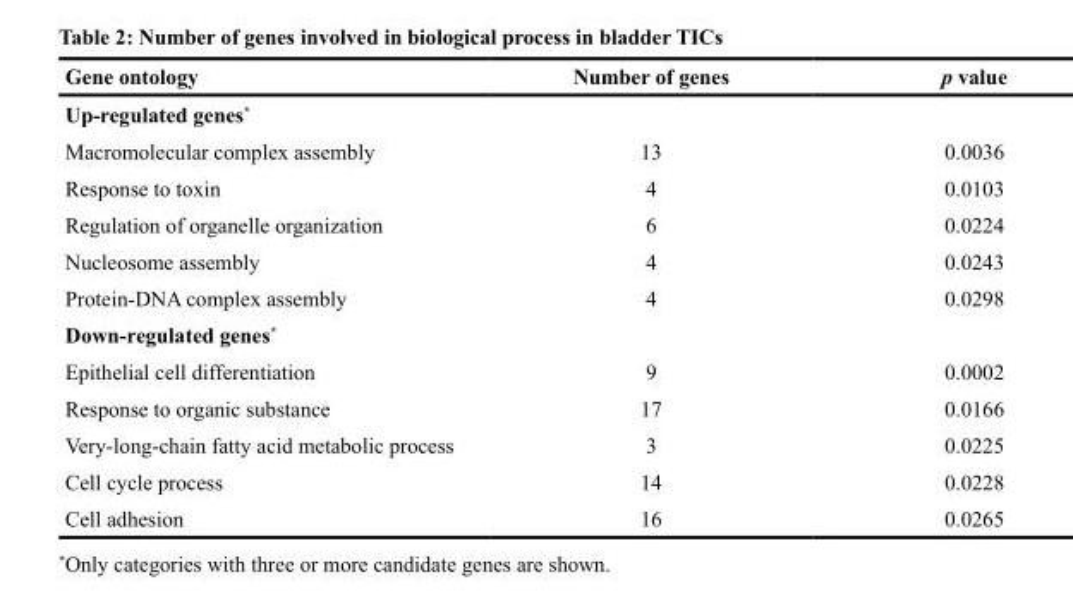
<table><thead><tr><td>Gene ontology</td><td>Number of genes</td><td>p value</td></tr></thead><tbody><tr><td colspan="3">Up-regulated genes*</td></tr><tr><td>Macromolecular complex assembly</td><td>13</td><td>0.0036</td></tr><tr><td>Response to toxin</td><td>4</td><td>0.0103</td></tr><tr><td>Regulation of organelle organization</td><td>6</td><td>0.0224</td></tr><tr><td>Nucleosome assembly</td><td>4</td><td>0.0243</td></tr><tr><td>Protein-DNA complex assembly</td><td>4</td><td>0.0298</td></tr><tr><td colspan="3">Down-regulated genes*</td></tr><tr><td>Epithelial cell differentiation</td><td>9</td><td>0.0002</td></tr><tr><td>Response to organic substance</td><td>17</td><td>0.0166</td></tr><tr><td>Very-long-chain fatty acid metabolic process</td><td>3</td><td>0.0225</td></tr><tr><td>Cell cycle process</td><td>14</td><td>0.0228</td></tr><tr><td>Cell adhesion</td><td>16</td><td>0.0265</td></tr></tbody></table>